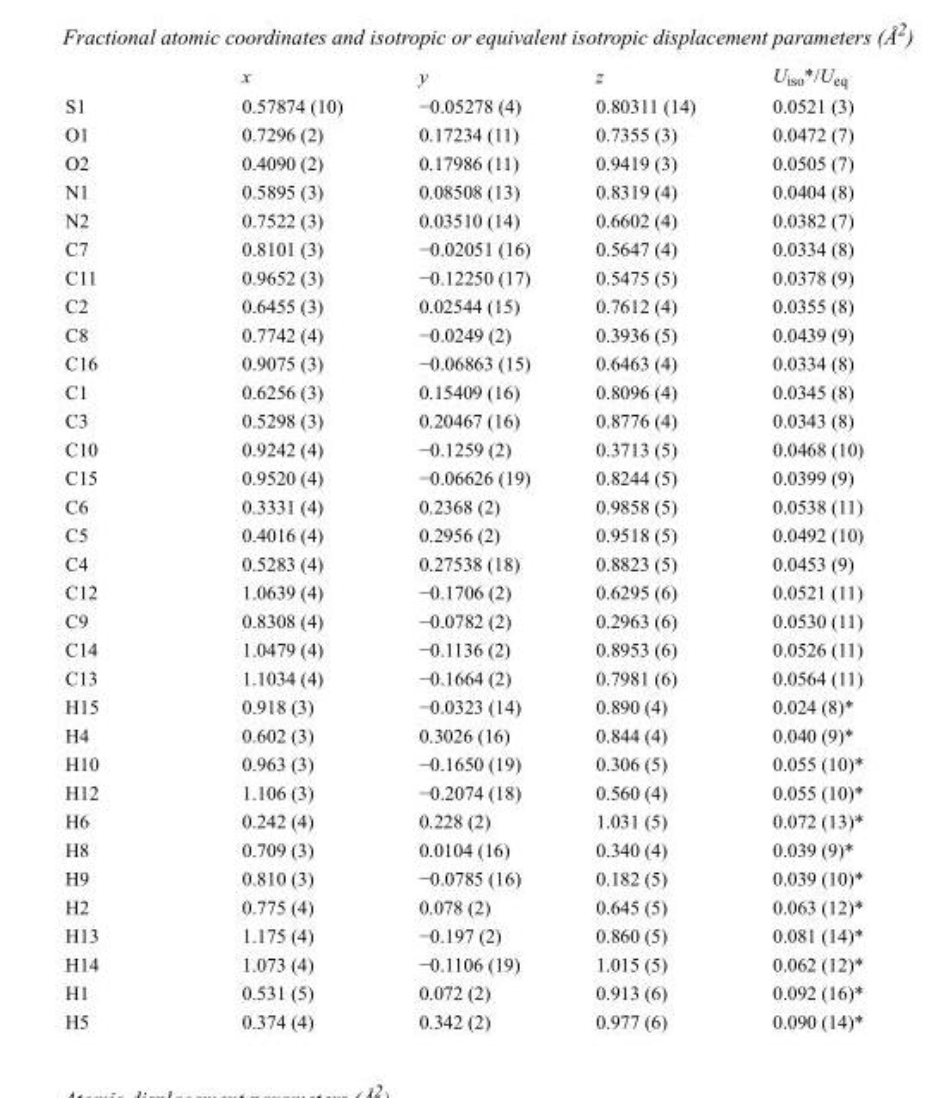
<table><thead><tr><td></td><td>x</td><td>y</td><td>z</td><td>U<sub>iso</sub>*/U<sub>eq</sub></td></tr></thead><tbody><tr><td>S1</td><td>0.57874 (10)</td><td>−0.05278 (4)</td><td>0.80311 (14)</td><td>0.0521 (3)</td></tr><tr><td>O1</td><td>0.7296 (2)</td><td>0.17234 (11)</td><td>0.7355 (3)</td><td>0.0472 (7)</td></tr><tr><td>O2</td><td>0.4090 (2)</td><td>0.17986 (11)</td><td>0.9419 (3)</td><td>0.0505 (7)</td></tr><tr><td>N1</td><td>0.5895 (3)</td><td>0.08508 (13)</td><td>0.8319 (4)</td><td>0.0404 (8)</td></tr><tr><td>N2</td><td>0.7522 (3)</td><td>0.03510 (14)</td><td>0.6602 (4)</td><td>0.0382 (7)</td></tr><tr><td>C7</td><td>0.8101 (3)</td><td>−0.02051 (16)</td><td>0.5647 (4)</td><td>0.0334 (8)</td></tr><tr><td>C11</td><td>0.9652 (3)</td><td>−0.12250 (17)</td><td>0.5475 (5)</td><td>0.0378 (9)</td></tr><tr><td>C2</td><td>0.6455 (3)</td><td>0.02544 (15)</td><td>0.7612 (4)</td><td>0.0355 (8)</td></tr><tr><td>C8</td><td>0.7742 (4)</td><td>−0.0249 (2)</td><td>0.3936 (5)</td><td>0.0439 (9)</td></tr><tr><td>C16</td><td>0.9075 (3)</td><td>−0.06863 (15)</td><td>0.6463 (4)</td><td>0.0334 (8)</td></tr><tr><td>C1</td><td>0.6256 (3)</td><td>0.15409 (16)</td><td>0.8096 (4)</td><td>0.0345 (8)</td></tr><tr><td>C3</td><td>0.5298 (3)</td><td>0.20467 (16)</td><td>0.8776 (4)</td><td>0.0343 (8)</td></tr><tr><td>C10</td><td>0.9242 (4)</td><td>−0.1259 (2)</td><td>0.3713 (5)</td><td>0.0468 (10)</td></tr><tr><td>C15</td><td>0.9520 (4)</td><td>−0.06626 (19)</td><td>0.8244 (5)</td><td>0.0399 (9)</td></tr><tr><td>C6</td><td>0.3331 (4)</td><td>0.2368 (2)</td><td>0.9858 (5)</td><td>0.0538 (11)</td></tr><tr><td>C5</td><td>0.4016 (4)</td><td>0.2956 (2)</td><td>0.9518 (5)</td><td>0.0492 (10)</td></tr><tr><td>C4</td><td>0.5283 (4)</td><td>0.27538 (18)</td><td>0.8823 (5)</td><td>0.0453 (9)</td></tr><tr><td>C12</td><td>1.0639 (4)</td><td>−0.1706 (2)</td><td>0.6295 (6)</td><td>0.0521 (11)</td></tr><tr><td>C9</td><td>0.8308 (4)</td><td>−0.0782 (2)</td><td>0.2963 (6)</td><td>0.0530 (11)</td></tr><tr><td>C14</td><td>1.0479 (4)</td><td>−0.1136 (2)</td><td>0.8953 (6)</td><td>0.0526 (11)</td></tr><tr><td>C13</td><td>1.1034 (4)</td><td>−0.1664 (2)</td><td>0.7981 (6)</td><td>0.0564 (11)</td></tr><tr><td>H15</td><td>0.918 (3)</td><td>−0.0323 (14)</td><td>0.890 (4)</td><td>0.024 (8)*</td></tr><tr><td>H4</td><td>0.602 (3)</td><td>0.3026 (16)</td><td>0.844 (4)</td><td>0.040 (9)*</td></tr><tr><td>H10</td><td>0.963 (3)</td><td>−0.1650 (19)</td><td>0.306 (5)</td><td>0.055 (10)*</td></tr><tr><td>H12</td><td>1.106 (3)</td><td>−0.2074 (18)</td><td>0.560 (4)</td><td>0.055 (10)*</td></tr><tr><td>H6</td><td>0.242 (4)</td><td>0.228 (2)</td><td>1.031 (5)</td><td>0.072 (13)*</td></tr><tr><td>H8</td><td>0.709 (3)</td><td>0.0104 (16)</td><td>0.340 (4)</td><td>0.039 (9)*</td></tr><tr><td>H9</td><td>0.810 (3)</td><td>−0.0785 (16)</td><td>0.182 (5)</td><td>0.039 (10)*</td></tr><tr><td>H2</td><td>0.775 (4)</td><td>0.078 (2)</td><td>0.645 (5)</td><td>0.063 (12)*</td></tr><tr><td>H13</td><td>1.175 (4)</td><td>−0.197 (2)</td><td>0.860 (5)</td><td>0.081 (14)*</td></tr><tr><td>H14</td><td>1.073 (4)</td><td>−0.1106 (19)</td><td>1.015 (5)</td><td>0.062 (12)*</td></tr><tr><td>H1</td><td>0.531 (5)</td><td>0.072 (2)</td><td>0.913 (6)</td><td>0.092 (16)*</td></tr><tr><td>H5</td><td>0.374 (4)</td><td>0.342 (2)</td><td>0.977 (6)</td><td>0.090 (14)*</td></tr></tbody></table>